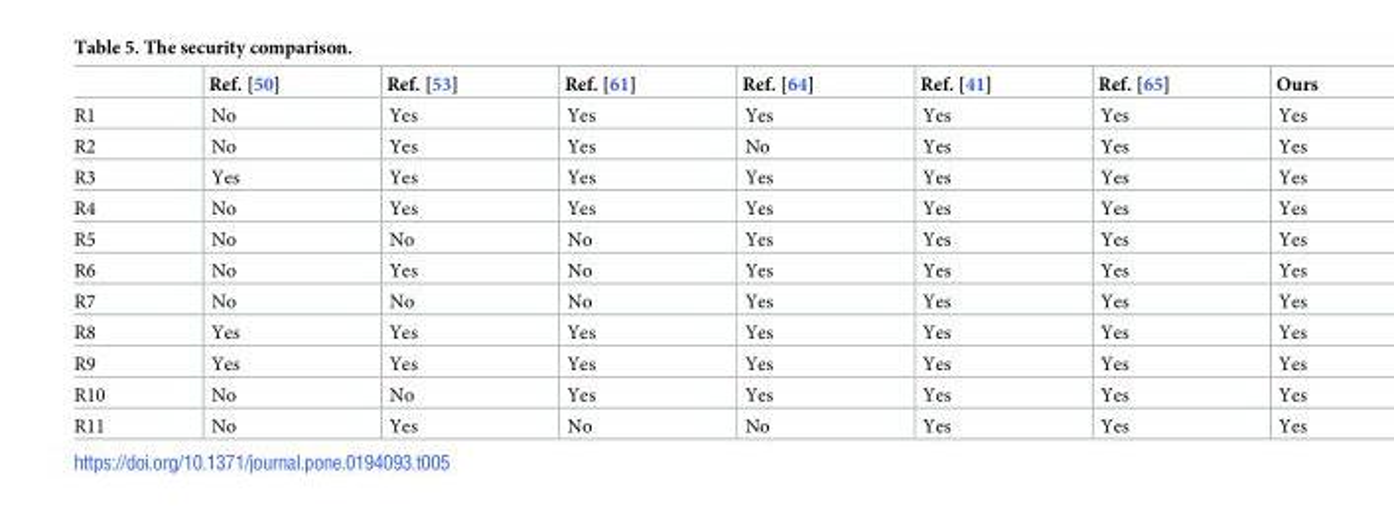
<table><thead><tr><td></td><td>Ref. [50]</td><td>Ref. [53]</td><td>Ref. [61]</td><td>Ref. [64]</td><td>Ref. [41]</td><td>Ref. [65]</td><td>Ours</td></tr></thead><tbody><tr><td>R1</td><td>No</td><td>Yes</td><td>Yes</td><td>Yes</td><td>Yes</td><td>Yes</td><td>Yes</td></tr><tr><td>R2</td><td>No</td><td>Yes</td><td>Yes</td><td>No</td><td>Yes</td><td>Yes</td><td>Yes</td></tr><tr><td>R3</td><td>Yes</td><td>Yes</td><td>Yes</td><td>Yes</td><td>Yes</td><td>Yes</td><td>Yes</td></tr><tr><td>R4</td><td>No</td><td>Yes</td><td>Yes</td><td>Yes</td><td>Yes</td><td>Yes</td><td>Yes</td></tr><tr><td>R5</td><td>No</td><td>No</td><td>No</td><td>Yes</td><td>Yes</td><td>Yes</td><td>Yes</td></tr><tr><td>R6</td><td>No</td><td>Yes</td><td>No</td><td>Yes</td><td>Yes</td><td>Yes</td><td>Yes</td></tr><tr><td>R7</td><td>No</td><td>No</td><td>No</td><td>Yes</td><td>Yes</td><td>Yes</td><td>Yes</td></tr><tr><td>R8</td><td>Yes</td><td>Yes</td><td>Yes</td><td>Yes</td><td>Yes</td><td>Yes</td><td>Yes</td></tr><tr><td>R9</td><td>Yes</td><td>Yes</td><td>Yes</td><td>Yes</td><td>Yes</td><td>Yes</td><td>Yes</td></tr><tr><td>R10</td><td>No</td><td>No</td><td>Yes</td><td>Yes</td><td>Yes</td><td>Yes</td><td>Yes</td></tr><tr><td>R11</td><td>No</td><td>Yes</td><td>No</td><td>No</td><td>Yes</td><td>Yes</td><td>Yes</td></tr></tbody></table>